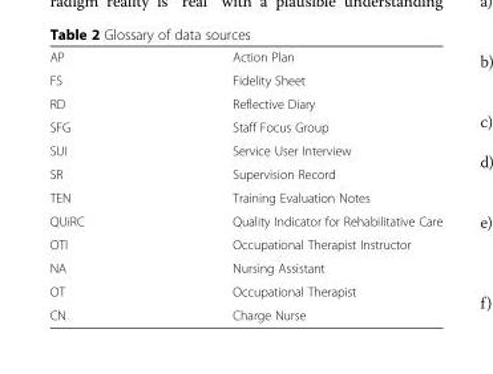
<table><tbody><tr><td>AP</td><td>Action Plan</td></tr><tr><td>FS</td><td>Fidelity Sheet</td></tr><tr><td>RD</td><td>Reflective Diary</td></tr><tr><td>SFG</td><td>Staff Focus Group</td></tr><tr><td>SUI</td><td>Service User Interview</td></tr><tr><td>SR</td><td>Supervision Record</td></tr><tr><td>TEN</td><td>Training Evaluation Notes</td></tr><tr><td>QUiRC</td><td>Quality Indicator for Rehabilitative Care</td></tr><tr><td>OTI</td><td>Occupational Therapist Instructor</td></tr><tr><td>NA</td><td>Nursing Assistant</td></tr><tr><td>OT</td><td>Occupational Therapist</td></tr><tr><td>CN</td><td>Charge Nurse</td></tr></tbody></table>